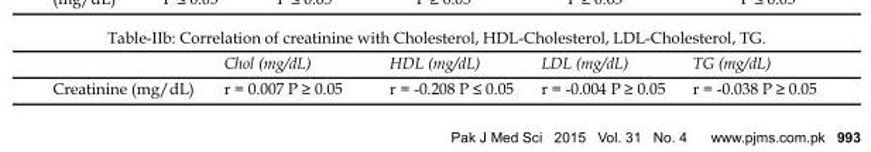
<table><thead><tr><td></td><td>Chol (mg/dL)</td><td>HDL (mg/dL)</td><td>LDL (mg/dL)</td><td>TG (mg/dL)</td></tr></thead><tbody><tr><td>Creatinine (mg/dL)</td><td>r = 0.007 P ≥ 0.05</td><td>r = -0.208 P ≤ 0.05</td><td>r = -0.004 P ≥ 0.05</td><td>r = -0.038 P ≥ 0.05</td></tr></tbody></table>